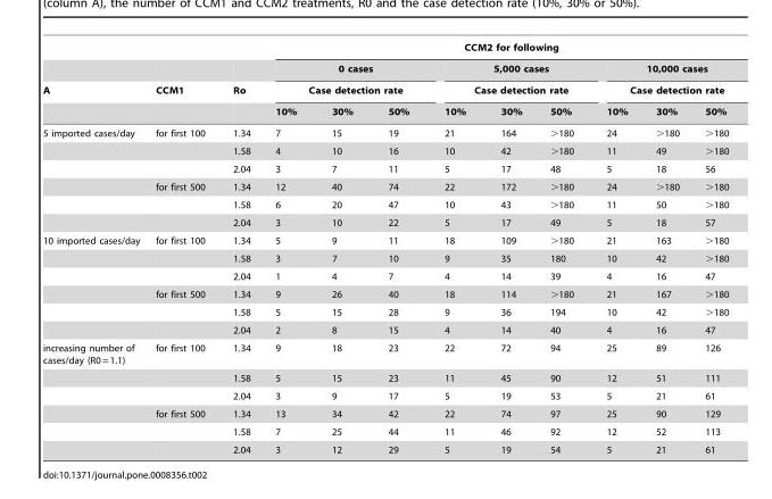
<table><thead><tr><td rowspan="4">A</td><td rowspan="4">CCM1</td><td rowspan="4">Ro</td><td colspan="9">CCM2 for following</td></tr><tr><td rowspan="2" colspan="3">0 cases Case detection rate</td><td rowspan="2" colspan="3">5,000 cases Case detection rate</td><td rowspan="2" colspan="3">10,000 cases Case detection rate</td></tr><tr></tr><tr><td>10%</td><td>30%</td><td>50%</td><td>10%</td><td>30%</td><td>50%</td><td>10%</td><td>30%</td><td>50%</td></tr></thead><tbody><tr><td rowspan="6">5 imported cases/day</td><td>for first 100</td><td>1.34</td><td>7</td><td>15</td><td>19</td><td>21</td><td>164</td><td>&gt;180</td><td>24</td><td>&gt;180</td><td>&gt;180</td></tr><tr><td></td><td>1.58</td><td>4</td><td>10</td><td>16</td><td>10</td><td>42</td><td>&gt;180</td><td>11</td><td>49</td><td>&gt;180</td></tr><tr><td></td><td>2.04</td><td>3</td><td>7</td><td>11</td><td>5</td><td>17</td><td>48</td><td>5</td><td>18</td><td>56</td></tr><tr><td>for first 500</td><td>1.34</td><td>12</td><td>40</td><td>74</td><td>22</td><td>172</td><td>&gt;180</td><td>24</td><td>&gt;180</td><td>&gt;180</td></tr><tr><td></td><td>1.58</td><td>6</td><td>20</td><td>47</td><td>10</td><td>43</td><td>&gt;180</td><td>11</td><td>50</td><td>&gt;180</td></tr><tr><td></td><td>2.04</td><td>3</td><td>10</td><td>22</td><td>5</td><td>17</td><td>49</td><td>5</td><td>18</td><td>57</td></tr><tr><td rowspan="6">10 imported cases/day</td><td>for first 100</td><td>1.34</td><td>5</td><td>9</td><td>11</td><td>18</td><td>109</td><td>&gt;180</td><td>21</td><td>163</td><td>&gt;180</td></tr><tr><td></td><td>1.58</td><td>3</td><td>7</td><td>10</td><td>9</td><td>35</td><td>180</td><td>10</td><td>42</td><td>&gt;180</td></tr><tr><td></td><td>2.04</td><td>1</td><td>4</td><td>7</td><td>4</td><td>14</td><td>39</td><td>4</td><td>16</td><td>47</td></tr><tr><td>for first 500</td><td>1.34</td><td>9</td><td>26</td><td>40</td><td>18</td><td>114</td><td>&gt;180</td><td>21</td><td>167</td><td>&gt;180</td></tr><tr><td></td><td>1.58</td><td>5</td><td>15</td><td>28</td><td>9</td><td>36</td><td>194</td><td>10</td><td>42</td><td>&gt;180</td></tr><tr><td></td><td>2.04</td><td>2</td><td>8</td><td>15</td><td>4</td><td>14</td><td>40</td><td>4</td><td>16</td><td>47</td></tr><tr><td rowspan="6">increasing number of cases/day (R0 = 1.1)</td><td>for first 100</td><td>1.34</td><td>9</td><td>18</td><td>23</td><td>22</td><td>72</td><td>94</td><td>25</td><td>89</td><td>126</td></tr><tr><td></td><td>1.58</td><td>5</td><td>15</td><td>23</td><td>11</td><td>45</td><td>90</td><td>12</td><td>51</td><td>111</td></tr><tr><td></td><td>2.04</td><td>3</td><td>9</td><td>17</td><td>5</td><td>19</td><td>53</td><td>5</td><td>21</td><td>61</td></tr><tr><td>for first 500</td><td>1.34</td><td>13</td><td>34</td><td>42</td><td>22</td><td>74</td><td>97</td><td>25</td><td>90</td><td>129</td></tr><tr><td></td><td>1.58</td><td>7</td><td>25</td><td>44</td><td>11</td><td>46</td><td>92</td><td>12</td><td>52</td><td>113</td></tr><tr><td></td><td>2.04</td><td>3</td><td>12</td><td>29</td><td>5</td><td>19</td><td>54</td><td>5</td><td>21</td><td>61</td></tr></tbody></table>